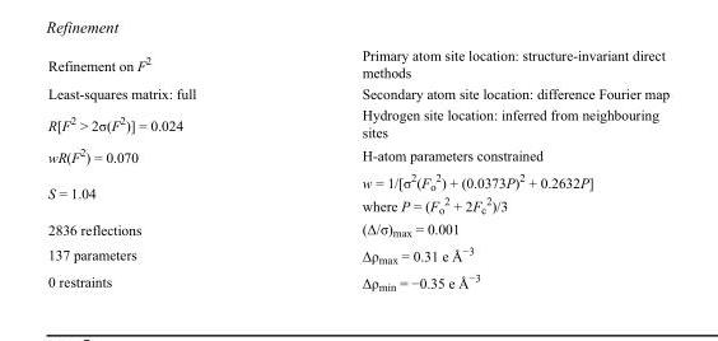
<table><tbody><tr><td>Refinement on F<sup>2</sup></td><td>Primary atom site location: structure-invariant direct methods</td></tr><tr><td>Least-squares matrix: full</td><td>Secondary atom site location: difference Fourier map</td></tr><tr><td>R[F<sup>2</sup> &gt; 2σ(F<sup>2</sup>)] = 0.024</td><td>Hydrogen site location: inferred from neighbouring sites</td></tr><tr><td>wR(F<sup>2</sup>) = 0.070</td><td>H-atom parameters constrained</td></tr><tr><td>S = 1.04</td><td>w = 1/[σ<sup>2</sup>(F<sub>o</sub> <sup>2</sup>) + (0.0373P)<sup>2</sup> + 0.2632P] where P = (F<sub>o</sub> <sup>2</sup> + 2F<sub>c</sub> <sup>2</sup>)/3</td></tr><tr><td>2836 reflections</td><td>(Δ/σ)<sub>max</sub> = 0.001</td></tr><tr><td>137 parameters</td><td>Δρ<sub>max</sub> = 0.31 e Å<sup>−3</sup></td></tr><tr><td>0 restraints</td><td>Δρ<sub>min</sub> = −0.35 e Å<sup>−3</sup></td></tr></tbody></table>